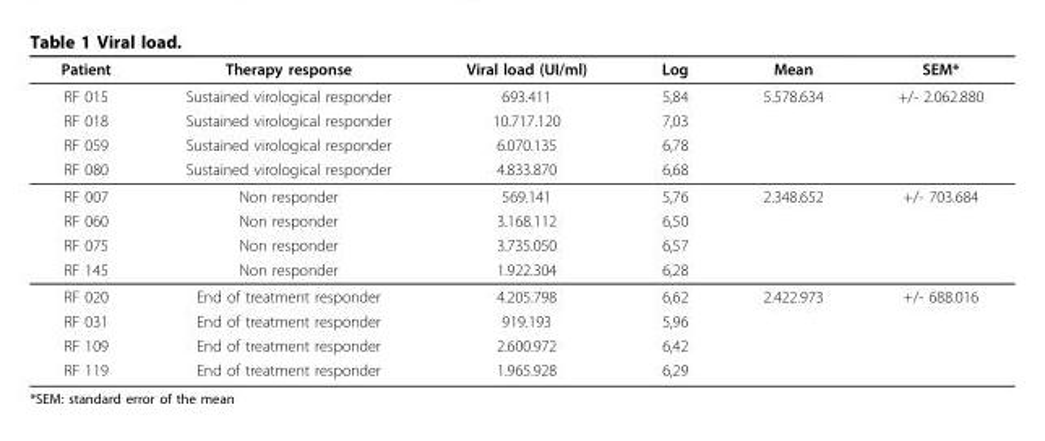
<table><thead><tr><td>Patient</td><td>Therapy response</td><td>Viral load (UI/ml)</td><td>Log</td><td>Mean</td><td>SEM*</td></tr></thead><tbody><tr><td>RF 015</td><td>Sustained virological responder</td><td>693.411</td><td>5,84</td><td>5.578.634</td><td>+/- 2.062.880</td></tr><tr><td>RF 018</td><td>Sustained virological responder</td><td>10.717.120</td><td>7,03</td><td></td><td></td></tr><tr><td>RF 059</td><td>Sustained virological responder</td><td>6.070.135</td><td>6,78</td><td></td><td></td></tr><tr><td>RF 080</td><td>Sustained virological responder</td><td>4.833.870</td><td>6,68</td><td></td><td></td></tr><tr><td>RF 007</td><td>Non responder</td><td>569.141</td><td>5,76</td><td>2.348.652</td><td>+/- 703.684</td></tr><tr><td>RF 060</td><td>Non responder</td><td>3.168.112</td><td>6,50</td><td></td><td></td></tr><tr><td>RF 075</td><td>Non responder</td><td>3.735.050</td><td>6,57</td><td></td><td></td></tr><tr><td>RF 145</td><td>Non responder</td><td>1.922.304</td><td>6,28</td><td></td><td></td></tr><tr><td>RF 020</td><td>End of treatment responder</td><td>4.205.798</td><td>6,62</td><td>2.422.973</td><td>+/- 688.016</td></tr><tr><td>RF 031</td><td>End of treatment responder</td><td>919.193</td><td>5,96</td><td></td><td></td></tr><tr><td>RF 109</td><td>End of treatment responder</td><td>2.600.972</td><td>6,42</td><td></td><td></td></tr><tr><td>RF 119</td><td>End of treatment responder</td><td>1.965.928</td><td>6,29</td><td></td><td></td></tr></tbody></table>